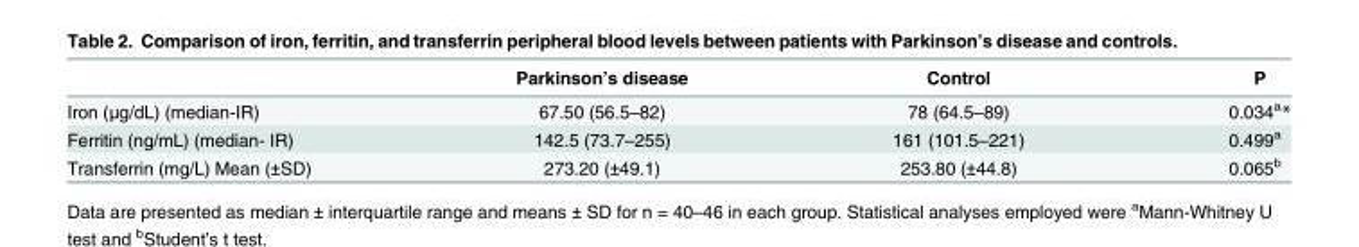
<table><thead><tr><td></td><td>Parkinson’s disease</td><td>Control</td><td>P</td></tr></thead><tbody><tr><td>Iron (μg/dL) (median-IR)</td><td>67.50 (56.5–82)</td><td>78 (64.5–89)</td><td>0.034<sup>a</sup>*</td></tr><tr><td>Ferritin (ng/mL) (median- IR)</td><td>142.5 (73.7–255)</td><td>161 (101.5–221)</td><td>0.499<sup>a</sup></td></tr><tr><td>Transferrin (mg/L) Mean (±SD)</td><td>273.20 (±49.1)</td><td>253.80 (±44.8)</td><td>0.065<sup>b</sup></td></tr></tbody></table>